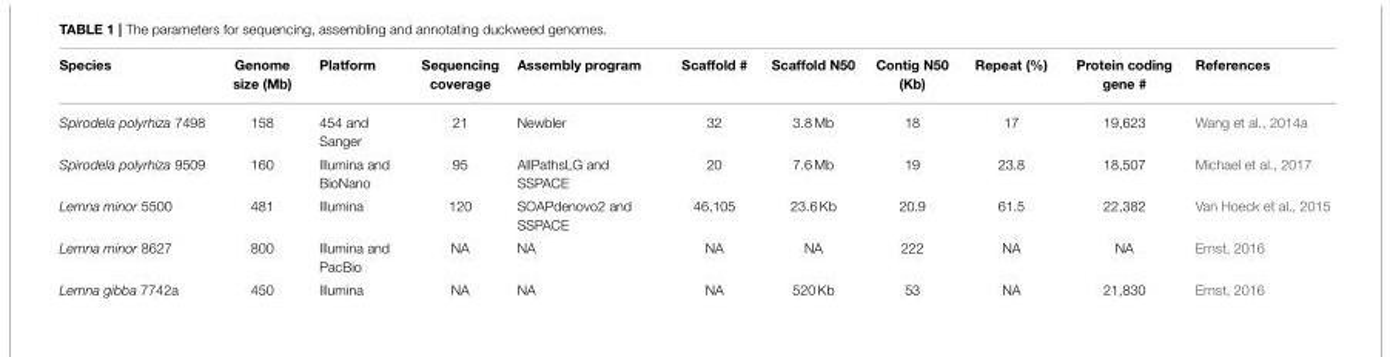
<table><thead><tr><td>Species</td><td>Genome size (Mb)</td><td>Platform</td><td>Sequencing coverage</td><td>Assembly program</td><td>Scaffold #</td><td>Scaffold N50</td><td>Contig N50 (Kb)</td><td>Repeat (%)</td><td>Protein coding gene #</td><td>References</td></tr></thead><tbody><tr><td>Spirodela polyrhiza 7498</td><td>158</td><td>454 and Sanger</td><td>21</td><td>Newbler</td><td>32</td><td>3.8 Mb</td><td>18</td><td>17</td><td>19,623</td><td>Wang et al., 2014a</td></tr><tr><td>Spirodela polyrhiza 9509</td><td>160</td><td>Illumina and BioNano</td><td>95</td><td>AllPathsLG and SSPACE</td><td>20</td><td>7.6 Mb</td><td>19</td><td>23.8</td><td>18,507</td><td>Michael et al., 2017</td></tr><tr><td>Lemna minor 5500</td><td>481</td><td>Illumina</td><td>120</td><td>SOAPdenovo2 and SSPACE</td><td>46,105</td><td>23.6 Kb</td><td>20.9</td><td>61.5</td><td>22,382</td><td>Van Hoeck et al., 2015</td></tr><tr><td>Lemna minor 8627</td><td>800</td><td>Illumina and PacBio</td><td>NA</td><td>NA</td><td>NA</td><td>NA</td><td>222</td><td>NA</td><td>NA</td><td>Ernst, 2016</td></tr><tr><td>Lemna gibba 7742a</td><td>450</td><td>Illumina</td><td>NA</td><td>NA</td><td>NA</td><td>520 Kb</td><td>53</td><td>NA</td><td>21,830</td><td>Ernst, 2016</td></tr></tbody></table>